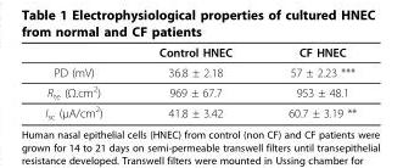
<table><thead><tr><td></td><td>Control HNEC</td><td>CF HNEC</td></tr></thead><tbody><tr><td>PD (mV)</td><td>36.8 ± 2.18</td><td>57 ± 2.23 ***</td></tr><tr><td>R<sub>te</sub> (Ω.cm<sup>2</sup>)</td><td>969 ± 67.7</td><td>953 ± 48.1</td></tr><tr><td>I<sub>sc</sub> (μA/cm<sup>2</sup>)</td><td>41.8 ± 3.42</td><td>60.7 ± 3.19 **</td></tr></tbody></table>